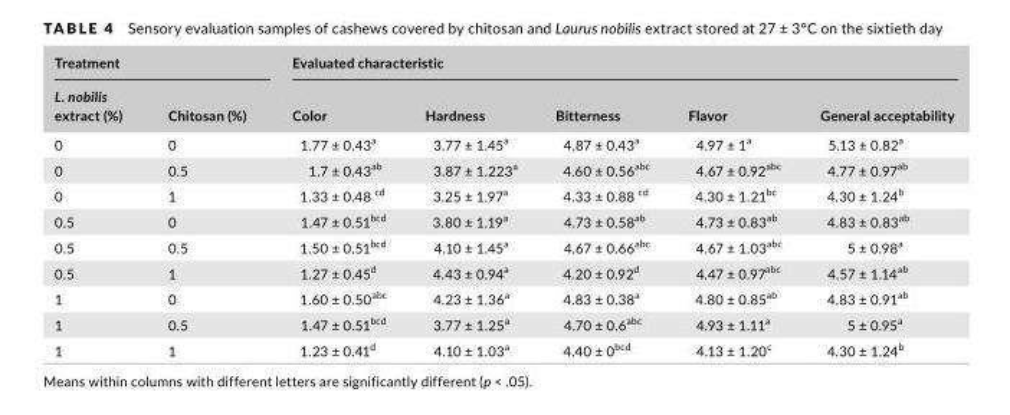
<table><thead><tr><td colspan="2">Treatment</td><td colspan="5">Evaluated characteristic</td></tr><tr><td>L. nobilis extract (%)</td><td>Chitosan (%)</td><td>Color</td><td>Hardness</td><td>Bitterness</td><td>Flavor</td><td>General acceptability</td></tr></thead><tbody><tr><td>0</td><td>0</td><td>1.77 ± 0.43<sup>a</sup></td><td>3.77 ± 1.45<sup>a</sup></td><td>4.87 ± 0.43<sup>a</sup></td><td>4.97 ± 1<sup>a</sup></td><td>5.13 ± 0.82<sup>a</sup></td></tr><tr><td>0</td><td>0.5</td><td>1.7 ± 0.43<sup>ab</sup></td><td>3.87 ± 1.223<sup>a</sup></td><td>4.60 ± 0.56<sup>abc</sup></td><td>4.67 ± 0.92<sup>abc</sup></td><td>4.77 ± 0.97<sup>ab</sup></td></tr><tr><td>0</td><td>1</td><td>1.33 ± 0.48 <sup>cd</sup></td><td>3.25 ± 1.97<sup>a</sup></td><td>4.33 ± 0.88 <sup>cd</sup></td><td>4.30 ± 1.21<sup>bc</sup></td><td>4.30 ± 1.24<sup>b</sup></td></tr><tr><td>0.5</td><td>0</td><td>1.47 ± 0.51<sup>bcd</sup></td><td>3.80 ± 1.19<sup>a</sup></td><td>4.73 ± 0.58<sup>ab</sup></td><td>4.73 ± 0.83<sup>ab</sup></td><td>4.83 ± 0.83<sup>ab</sup></td></tr><tr><td>0.5</td><td>0.5</td><td>1.50 ± 0.51<sup>bcd</sup></td><td>4.10 ± 1.45<sup>a</sup></td><td>4.67 ± 0.66<sup>abc</sup></td><td>4.67 ± 1.03<sup>abc</sup></td><td>5 ± 0.98<sup>a</sup></td></tr><tr><td>0.5</td><td>1</td><td>1.27 ± 0.45<sup>d</sup></td><td>4.43 ± 0.94<sup>a</sup></td><td>4.20 ± 0.92<sup>d</sup></td><td>4.47 ± 0.97<sup>abc</sup></td><td>4.57 ± 1.14<sup>ab</sup></td></tr><tr><td>1</td><td>0</td><td>1.60 ± 0.50<sup>abc</sup></td><td>4.23 ± 1.36<sup>a</sup></td><td>4.83 ± 0.38<sup>a</sup></td><td>4.80 ± 0.85<sup>ab</sup></td><td>4.83 ± 0.91<sup>ab</sup></td></tr><tr><td>1</td><td>0.5</td><td>1.47 ± 0.51<sup>bcd</sup></td><td>3.77 ± 1.25<sup>a</sup></td><td>4.70 ± 0.6<sup>abc</sup></td><td>4.93 ± 1.11<sup>a</sup></td><td>5 ± 0.95<sup>a</sup></td></tr><tr><td>1</td><td>1</td><td>1.23 ± 0.41<sup>d</sup></td><td>4.10 ± 1.03<sup>a</sup></td><td>4.40 ± 0<sup>bcd</sup></td><td>4.13 ± 1.20<sup>c</sup></td><td>4.30 ± 1.24<sup>b</sup></td></tr></tbody></table>